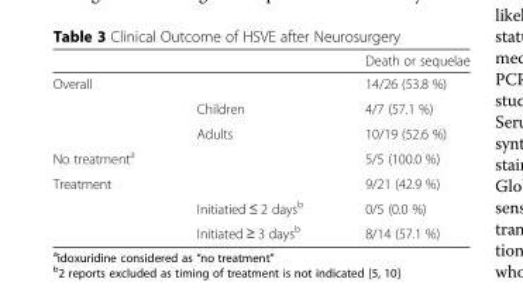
<table><thead><tr><td></td><td></td><td>Death or sequelae</td></tr></thead><tbody><tr><td rowspan="3">Overall</td><td></td><td>14/26 (53.8 %)</td></tr><tr><td>Children</td><td>4/7 (57.1 %)</td></tr><tr><td>Adults</td><td>10/19 (52.6 %)</td></tr><tr><td>No treatment<sup>a</sup></td><td></td><td>5/5 (100.0 %)</td></tr><tr><td rowspan="3">Treatment</td><td></td><td>9/21 (42.9 %)</td></tr><tr><td>Initiatied ≤ 2 days<sup>b</sup></td><td>0/5 (0.0 %)</td></tr><tr><td>Initiated ≥ 3 days<sup>b</sup></td><td>8/14 (57.1 %)</td></tr></tbody></table>